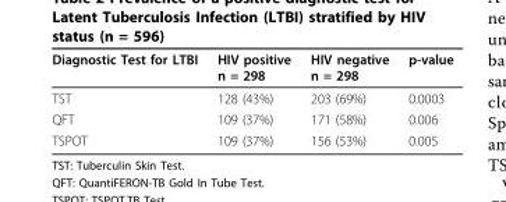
<table><thead><tr><td>Diagnostic Test for LTBI</td><td>HIV positive n = 298</td><td>HIV negative n = 298</td><td>p-value</td></tr></thead><tbody><tr><td>TST</td><td>128 (43%)</td><td>203 (69%)</td><td>0.0003</td></tr><tr><td>QFT</td><td>109 (37%)</td><td>171 (58%)</td><td>0.006</td></tr><tr><td>TSPOT</td><td>109 (37%)</td><td>156 (53%)</td><td>0.005</td></tr></tbody></table>